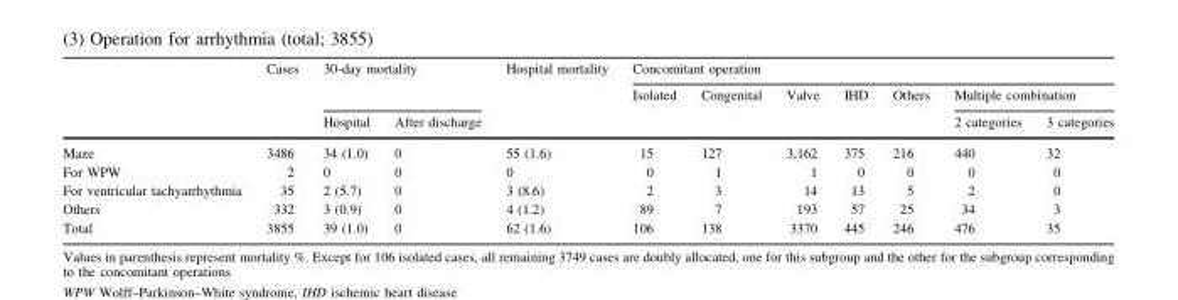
<table><thead><tr><td rowspan="3"></td><td rowspan="3">Cases</td><td rowspan="2" colspan="2">30-day mortality</td><td rowspan="3">Hospital mortality</td><td colspan="7">Concomitant operation</td></tr><tr><td rowspan="2">Isolated</td><td rowspan="2">Congenital</td><td rowspan="2">Valve</td><td rowspan="2">IHD</td><td rowspan="2">Others</td><td colspan="2">Multiple combination</td></tr><tr><td>Hospital</td><td>After discharge</td><td>2 categories</td><td>3 categories</td></tr></thead><tbody><tr><td>Maze</td><td>3486</td><td>34 (1.0)</td><td>0</td><td>55 (1.6)</td><td>15</td><td>127</td><td>3,162</td><td>375</td><td>216</td><td>440</td><td>32</td></tr><tr><td>For WPW</td><td>2</td><td>0</td><td>0</td><td>0</td><td>0</td><td>1</td><td>1</td><td>0</td><td>0</td><td>0</td><td>0</td></tr><tr><td>For ventricular tachyarrhythmia</td><td>35</td><td>2 (5.7)</td><td>0</td><td>3 (8.6)</td><td>2</td><td>3</td><td>14</td><td>13</td><td>5</td><td>2</td><td>0</td></tr><tr><td>Others</td><td>332</td><td>3 (0.9)</td><td>0</td><td>4 (1.2)</td><td>89</td><td>7</td><td>193</td><td>57</td><td>25</td><td>34</td><td>3</td></tr><tr><td>Total</td><td>3855</td><td>39 (1.0)</td><td>0</td><td>62 (1.6)</td><td>106</td><td>138</td><td>3370</td><td>445</td><td>246</td><td>476</td><td>35</td></tr></tbody></table>